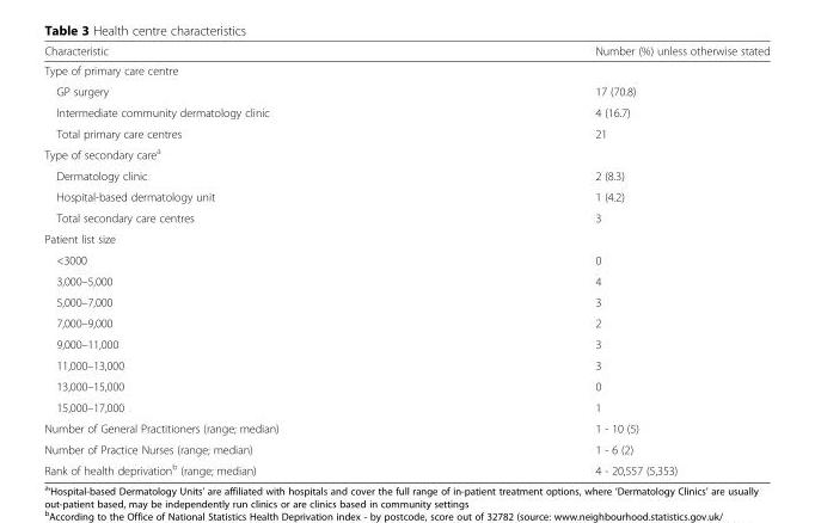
<table><thead><tr><td>Characteristic</td><td>Number (%) unless otherwise stated</td></tr></thead><tbody><tr><td colspan="2">Type of primary care centre</td></tr><tr><td>GP surgery</td><td>17 (70.8)</td></tr><tr><td>Intermediate community dermatology clinic</td><td>4 (16.7)</td></tr><tr><td>Total primary care centres</td><td>21</td></tr><tr><td colspan="2">Type of secondary care<sup>a</sup></td></tr><tr><td>Dermatology clinic</td><td>2 (8.3)</td></tr><tr><td>Hospital-based dermatology unit</td><td>1 (4.2)</td></tr><tr><td>Total secondary care centres</td><td>3</td></tr><tr><td colspan="2">Patient list size</td></tr><tr><td>&lt;3000</td><td>0</td></tr><tr><td>3,000–5,000</td><td>4</td></tr><tr><td>5,000–7,000</td><td>3</td></tr><tr><td>7,000–9,000</td><td>2</td></tr><tr><td>9,000–11,000</td><td>3</td></tr><tr><td>11,000–13,000</td><td>3</td></tr><tr><td>13,000–15,000</td><td>0</td></tr><tr><td>15,000–17,000</td><td>1</td></tr><tr><td>Number of General Practitioners (range; median)</td><td>1 - 10 (5)</td></tr><tr><td>Number of Practice Nurses (range; median)</td><td>1 - 6 (2)</td></tr><tr><td>Rank of health deprivation<sup>b</sup> (range; median)</td><td>4 - 20,557 (5,353)</td></tr></tbody></table>